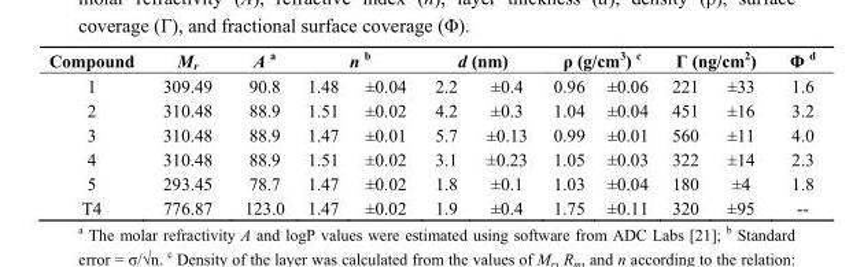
<table><thead><tr><td>Compound</td><td>M<sub>r</sub></td><td>A <sup>a</sup></td><td>n <sup>b</sup></td><td>d (nm)</td><td>ρ (g/cm<sup>3</sup>) c</td><td>Г (ng/cm2)</td><td>Φ d</td></tr></thead><tbody><tr><td>1</td><td>309.49</td><td>90.8</td><td>1.48 ±0.04</td><td>2.2 ±0.4</td><td>0.96 ±0.06</td><td>221 ±33</td><td>1.6</td></tr><tr><td>2</td><td>310.48</td><td>88.9</td><td>1.51 ±0.02</td><td>4.2 ±0.3</td><td>1.04 ±0.04</td><td>451 ±16</td><td>3.2</td></tr><tr><td>3</td><td>310.48</td><td>88.9</td><td>1.47 ±0.01</td><td>5.7 ±0.13</td><td>0.99 ±0.01</td><td>560 ±11</td><td>4.0</td></tr><tr><td>4</td><td>310.48</td><td>88.9</td><td>1.51 ±0.02</td><td>3.1 ±0.23</td><td>1.05 ±0.03</td><td>322 ±14</td><td>2.3</td></tr><tr><td>5</td><td>293.45</td><td>78.7</td><td>1.47 ±0.02</td><td>1.8 ±0.1</td><td>1.03 ±0.04</td><td>180 ±4</td><td>1.8</td></tr><tr><td>T4</td><td>776.87</td><td>123.0</td><td>1.47 ±0.02</td><td>1.9 ±0.4</td><td>1.75 ±0.11</td><td>320 ±95</td><td>--</td></tr></tbody></table>